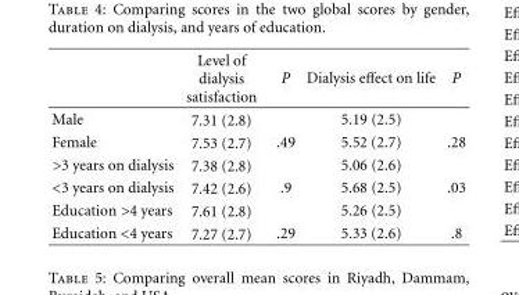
<table><thead><tr><td></td><td>Level of dialysis satisfaction</td><td>P</td><td>Dialysis effect on life</td><td>P</td></tr></thead><tbody><tr><td>Male</td><td>7.31 (2.8)</td><td></td><td>5.19 (2.5)</td><td></td></tr><tr><td>Female</td><td>7.53 (2.7)</td><td>.49</td><td>5.52 (2.7)</td><td>.28</td></tr><tr><td>&gt;3 years on dialysis</td><td>7.38 (2.8)</td><td></td><td>5.06 (2.6)</td><td></td></tr><tr><td>&lt;3 years on dialysis</td><td>7.42 (2.6)</td><td>.9</td><td>5.68 (2.5)</td><td>.03</td></tr><tr><td>Education &gt;4 years</td><td>7.61 (2.8)</td><td></td><td>5.26 (2.5)</td><td></td></tr><tr><td>Education &lt;4 years</td><td>7.27 (2.7)</td><td>.29</td><td>5.33 (2.6)</td><td>.8</td></tr></tbody></table>